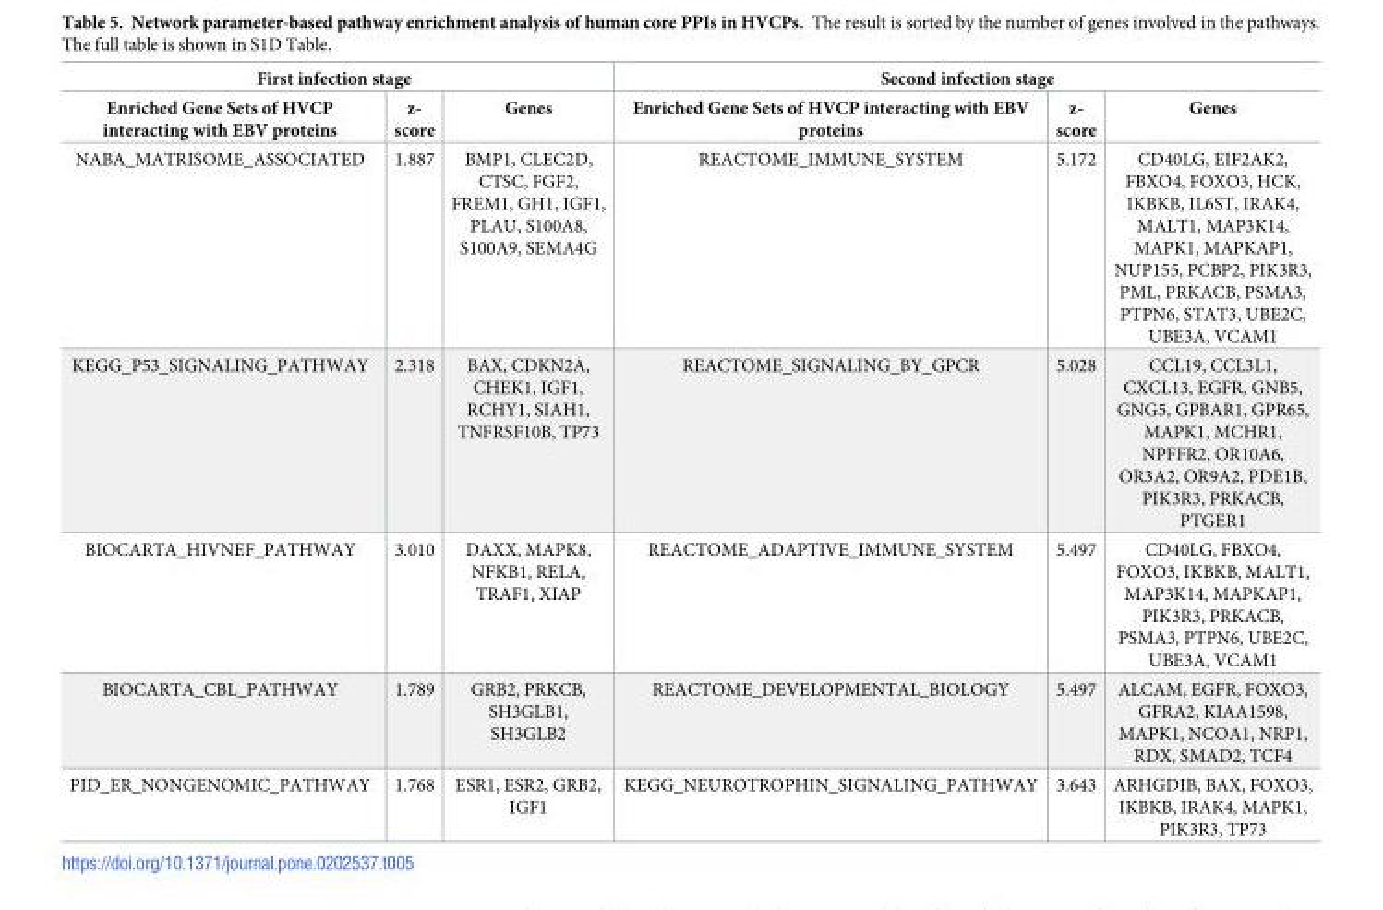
<table><thead><tr><td colspan="3">First infection stage</td><td colspan="3">Second infection stage</td></tr><tr><td>Enriched Gene Sets of HVCP interacting with EBV proteins</td><td>z- score</td><td>Genes</td><td>Enriched Gene Sets of HVCP interacting with EBV proteins</td><td>z- score</td><td>Genes</td></tr></thead><tbody><tr><td>NABA_MATRISOME_ASSOCIATED</td><td>1.887</td><td>BMP1, CLEC2D, CTSC, FGF2, FREM1, GH1, IGF1, PLAU, S100A8, S100A9, SEMA4G</td><td>REACTOME_IMMUNE_SYSTEM</td><td>5.172</td><td>CD40LG, EIF2AK2, FBXO4, FOXO3, HCK, IKBKB, IL6ST, IRAK4, MALT1, MAP3K14, MAPK1, MAPKAP1, NUP155, PCBP2, PIK3R3, PML, PRKACB, PSMA3, PTPN6, STAT3, UBE2C, UBE3A, VCAM1</td></tr><tr><td>KEGG_P53_SIGNALING_PATHWAY</td><td>2.318</td><td>BAX, CDKN2A, CHEK1, IGF1, RCHY1, SIAH1, TNFRSF10B, TP73</td><td>REACTOME_SIGNALING_BY_GPCR</td><td>5.028</td><td>CCL19, CCL3L1, CXCL13, EGFR, GNB5, GNG5, GPBAR1, GPR65, MAPK1, MCHR1, NPFFR2, OR10A6, OR3A2, OR9A2, PDE1B, PIK3R3, PRKACB, PTGER1</td></tr><tr><td>BIOCARTA_HIVNEF_PATHWAY</td><td>3.010</td><td>DAXX, MAPK8, NFKB1, RELA, TRAF1, XIAP</td><td>REACTOME_ADAPTIVE_IMMUNE_SYSTEM</td><td>5.497</td><td>CD40LG, FBXO4, FOXO3, IKBKB, MALT1, MAP3K14, MAPKAP1, PIK3R3, PRKACB, PSMA3, PTPN6, UBE2C, UBE3A, VCAM1</td></tr><tr><td>BIOCARTA_CBL_PATHWAY</td><td>1.789</td><td>GRB2, PRKCB, SH3GLB1, SH3GLB2</td><td>REACTOME_DEVELOPMENTAL_BIOLOGY</td><td>5.497</td><td>ALCAM, EGFR, FOXO3, GFRA2, KIAA1598, MAPK1, NCOA1, NRP1, RDX, SMAD2, TCF4</td></tr><tr><td>PID_ER_NONGENOMIC_PATHWAY</td><td>1.768</td><td>ESR1, ESR2, GRB2, IGF1</td><td>KEGG_NEUROTROPHIN_SIGNALING_PATHWAY</td><td>3.643</td><td>ARHGDIB, BAX, FOXO3, IKBKB, IRAK4, MAPK1, PIK3R3, TP73</td></tr></tbody></table>